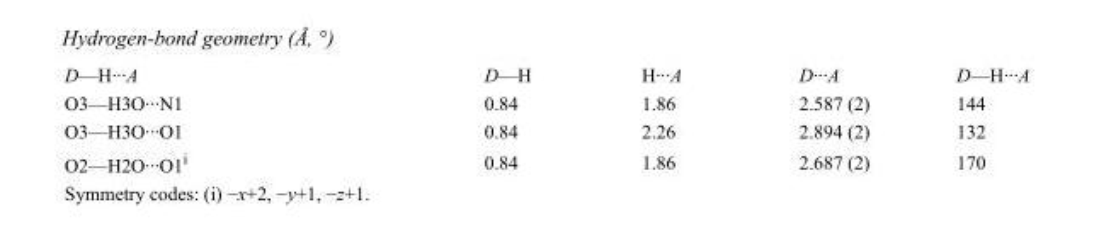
<table><tbody><tr><td>D—H···A</td><td>D—H</td><td>H···A</td><td>D···A</td><td>D—H···A</td></tr><tr><td>O3—H3O···N1</td><td>0.84</td><td>1.86</td><td>2.587 (2)</td><td>144</td></tr><tr><td>O3—H3O···O1</td><td>0.84</td><td>2.26</td><td>2.894 (2)</td><td>132</td></tr><tr><td>O2—H2O···O1<sup>i</sup></td><td>0.84</td><td>1.86</td><td>2.687 (2)</td><td>170</td></tr></tbody></table>